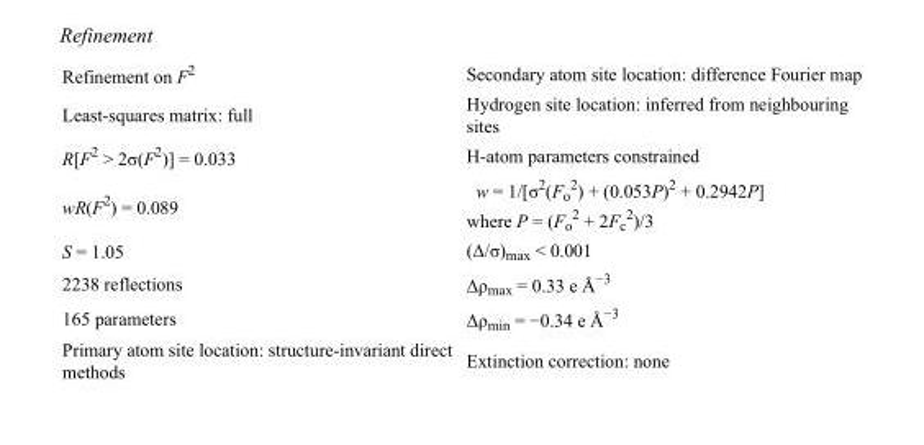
<table><tbody><tr><td>Refinement on F<sup>2</sup></td><td>Secondary atom site location: difference Fourier map</td></tr><tr><td>Least-squares matrix: full</td><td>Hydrogen site location: inferred from neighbouring sites</td></tr><tr><td>R[F<sup>2</sup> &gt; 2σ(F<sup>2</sup>)] = 0.033</td><td>H-atom parameters constrained</td></tr><tr><td>wR(F<sup>2</sup>) = 0.089</td><td>w = 1/[σ<sup>2</sup>(F<sub>o</sub> <sup>2</sup>) + (0.053P)<sup>2</sup> + 0.2942P] where P = (F<sub>o</sub> <sup>2</sup> + 2F<sub>c</sub> <sup>2</sup>)/3</td></tr><tr><td>S = 1.05</td><td>(Δ/σ)<sub>max</sub> &lt; 0.001</td></tr><tr><td>2238 reflections</td><td>Δρ<sub>max</sub> = 0.33 e Å<sup>−3</sup></td></tr><tr><td>165 parameters</td><td>Δρ<sub>min</sub> = −0.34 e Å<sup>−3</sup></td></tr><tr><td>Primary atom site location: structure-invariant direct methods</td><td>Extinction correction: none</td></tr></tbody></table>